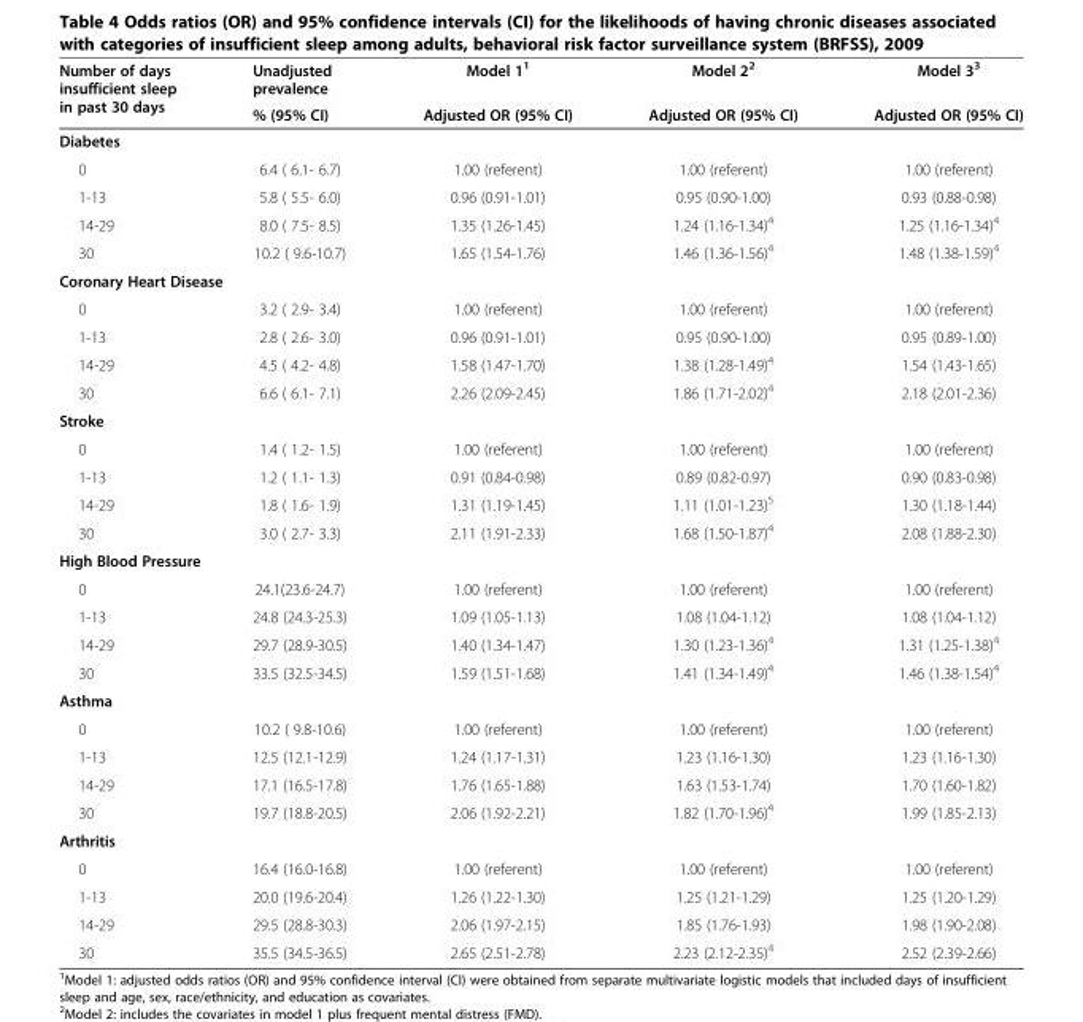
<table><thead><tr><td rowspan="2">Number of days insufficient sleep in past 30 days</td><td rowspan="2">Unadjusted prevalence % (95% CI)</td><td rowspan="2">Model 1<sup>1</sup> Adjusted OR (95% CI)</td><td rowspan="2">Model 2<sup>2</sup> Adjusted OR (95% CI)</td><td rowspan="2">Model 3<sup>3</sup> Adjusted OR (95% CI)</td></tr><tr></tr></thead><tbody><tr><td colspan="5">Diabetes</td></tr><tr><td>0</td><td>6.4 ( 6.1- 6.7)</td><td>1.00 (referent)</td><td>1.00 (referent)</td><td>1.00 (referent)</td></tr><tr><td>1-13</td><td>5.8 ( 5.5- 6.0)</td><td>0.96 (0.91-1.01)</td><td>0.95 (0.90-1.00)</td><td>0.93 (0.88-0.98)</td></tr><tr><td>14-29</td><td>8.0 ( 7.5- 8.5)</td><td>1.35 (1.26-1.45)</td><td>1.24 (1.16-1.34)<sup>4</sup></td><td>1.25 (1.16-1.34)<sup>4</sup></td></tr><tr><td>30</td><td>10.2 ( 9.6-10.7)</td><td>1.65 (1.54-1.76)</td><td>1.46 (1.36-1.56)<sup>4</sup></td><td>1.48 (1.38-1.59)<sup>4</sup></td></tr><tr><td colspan="5">Coronary Heart Disease</td></tr><tr><td>0</td><td>3.2 ( 2.9- 3.4)</td><td>1.00 (referent)</td><td>1.00 (referent)</td><td>1.00 (referent)</td></tr><tr><td>1-13</td><td>2.8 ( 2.6- 3.0)</td><td>0.96 (0.91-1.01)</td><td>0.95 (0.90-1.00)</td><td>0.95 (0.89-1.00)</td></tr><tr><td>14-29</td><td>4.5 ( 4.2- 4.8)</td><td>1.58 (1.47-1.70)</td><td>1.38 (1.28-1.49)<sup>4</sup></td><td>1.54 (1.43-1.65)</td></tr><tr><td>30</td><td>6.6 ( 6.1- 7.1)</td><td>2.26 (2.09-2.45)</td><td>1.86 (1.71-2.02)<sup>4</sup></td><td>2.18 (2.01-2.36)</td></tr><tr><td colspan="5">Stroke</td></tr><tr><td>0</td><td>1.4 ( 1.2- 1.5)</td><td>1.00 (referent)</td><td>1.00 (referent)</td><td>1.00 (referent)</td></tr><tr><td>1-13</td><td>1.2 ( 1.1- 1.3)</td><td>0.91 (0.84-0.98)</td><td>0.89 (0.82-0.97)</td><td>0.90 (0.83-0.98)</td></tr><tr><td>14-29</td><td>1.8 ( 1.6- 1.9)</td><td>1.31 (1.19-1.45)</td><td>1.11 (1.01-1.23)<sup>5</sup></td><td>1.30 (1.18-1.44)</td></tr><tr><td>30</td><td>3.0 ( 2.7- 3.3)</td><td>2.11 (1.91-2.33)</td><td>1.68 (1.50-1.87)<sup>4</sup></td><td>2.08 (1.88-2.30)</td></tr><tr><td colspan="5">High Blood Pressure</td></tr><tr><td>0</td><td>24.1(23.6-24.7)</td><td>1.00 (referent)</td><td>1.00 (referent)</td><td>1.00 (referent)</td></tr><tr><td>1-13</td><td>24.8 (24.3-25.3)</td><td>1.09 (1.05-1.13)</td><td>1.08 (1.04-1.12)</td><td>1.08 (1.04-1.12)</td></tr><tr><td>14-29</td><td>29.7 (28.9-30.5)</td><td>1.40 (1.34-1.47)</td><td>1.30 (1.23-1.36)<sup>4</sup></td><td>1.31 (1.25-1.38)<sup>4</sup></td></tr><tr><td>30</td><td>33.5 (32.5-34.5)</td><td>1.59 (1.51-1.68)</td><td>1.41 (1.34-1.49)<sup>4</sup></td><td>1.46 (1.38-1.54)<sup>4</sup></td></tr><tr><td colspan="5">Asthma</td></tr><tr><td>0</td><td>10.2 ( 9.8-10.6)</td><td>1.00 (referent)</td><td>1.00 (referent)</td><td>1.00 (referent)</td></tr><tr><td>1-13</td><td>12.5 (12.1-12.9)</td><td>1.24 (1.17-1.31)</td><td>1.23 (1.16-1.30)</td><td>1.23 (1.16-1.30)</td></tr><tr><td>14-29</td><td>17.1 (16.5-17.8)</td><td>1.76 (1.65-1.88)</td><td>1.63 (1.53-1.74)</td><td>1.70 (1.60-1.82)</td></tr><tr><td>30</td><td>19.7 (18.8-20.5)</td><td>2.06 (1.92-2.21)</td><td>1.82 (1.70-1.96)<sup>4</sup></td><td>1.99 (1.85-2.13)</td></tr><tr><td colspan="5">Arthritis</td></tr><tr><td>0</td><td>16.4 (16.0-16.8)</td><td>1.00 (referent)</td><td>1.00 (referent)</td><td>1.00 (referent)</td></tr><tr><td>1-13</td><td>20.0 (19.6-20.4)</td><td>1.26 (1.22-1.30)</td><td>1.25 (1.21-1.29)</td><td>1.25 (1.20-1.29)</td></tr><tr><td>14-29</td><td>29.5 (28.8-30.3)</td><td>2.06 (1.97-2.15)</td><td>1.85 (1.76-1.93)</td><td>1.98 (1.90-2.08)</td></tr><tr><td>30</td><td>35.5 (34.5-36.5)</td><td>2.65 (2.51-2.78)</td><td>2.23 (2.12-2.35)<sup>4</sup></td><td>2.52 (2.39-2.66)</td></tr></tbody></table>